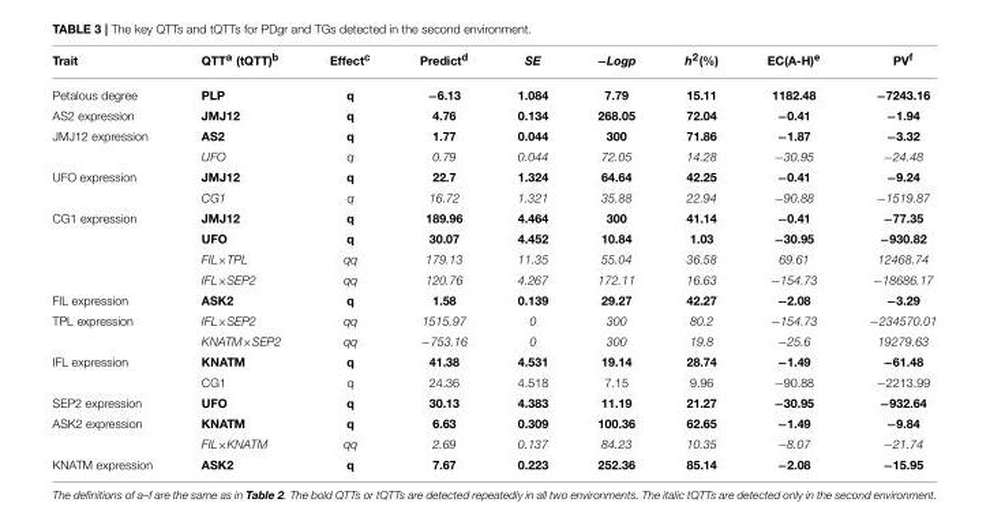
<table><thead><tr><td>Trait</td><td>QTT<sup>a</sup> (tQTT)<sup>b</sup></td><td>Effect<sup>c</sup></td><td>Predict<sup>d</sup></td><td>SE</td><td>−Logp</td><td>h<sup>2</sup>(%)</td><td>EC(A-H)<sup>e</sup></td><td>PV<sup>f</sup></td></tr></thead><tbody><tr><td>Petalous degree</td><td>PLP</td><td>q</td><td>−6.13</td><td>1.084</td><td>7.79</td><td>15.11</td><td>1182.48</td><td>−7243.16</td></tr><tr><td>AS2 expression</td><td>JMJ12</td><td>q</td><td>4.76</td><td>0.134</td><td>268.05</td><td>72.04</td><td>−0.41</td><td>−1.94</td></tr><tr><td rowspan="2">JMJ12 expression</td><td>AS2</td><td>q</td><td>1.77</td><td>0.044</td><td>300</td><td>71.86</td><td>−1.87</td><td>−3.32</td></tr><tr><td>UFO</td><td>q</td><td>0.79</td><td>0.044</td><td>72.05</td><td>14.28</td><td>−30.95</td><td>−24.48</td></tr><tr><td rowspan="2">UFO expression</td><td>JMJ12</td><td>q</td><td>22.7</td><td>1.324</td><td>64.64</td><td>42.25</td><td>−0.41</td><td>−9.24</td></tr><tr><td>CG1</td><td>q</td><td>16.72</td><td>1.321</td><td>35.88</td><td>22.94</td><td>−90.88</td><td>−1519.87</td></tr><tr><td rowspan="4">CG1 expression</td><td>JMJ12</td><td>q</td><td>189.96</td><td>4.464</td><td>300</td><td>41.14</td><td>−0.41</td><td>−77.35</td></tr><tr><td>UFO</td><td>q</td><td>30.07</td><td>4.452</td><td>10.84</td><td>1.03</td><td>−30.95</td><td>−930.82</td></tr><tr><td>FIL×TPL</td><td>qq</td><td>179.13</td><td>11.35</td><td>55.04</td><td>36.58</td><td>69.61</td><td>12468.74</td></tr><tr><td>IFL×SEP2</td><td>qq</td><td>120.76</td><td>4.267</td><td>172.11</td><td>16.63</td><td>−154.73</td><td>−18686.17</td></tr><tr><td>FIL expression</td><td>ASK2</td><td>q</td><td>1.58</td><td>0.139</td><td>29.27</td><td>42.27</td><td>−2.08</td><td>−3.29</td></tr><tr><td rowspan="2">TPL expression</td><td>IFL×SEP2</td><td>qq</td><td>1515.97</td><td>0</td><td>300</td><td>80.2</td><td>−154.73</td><td>−234570.01</td></tr><tr><td>KNATM×SEP2</td><td>qq</td><td>−753.16</td><td>0</td><td>300</td><td>19.8</td><td>−25.6</td><td>19279.63</td></tr><tr><td rowspan="2">IFL expression</td><td>KNATM</td><td>q</td><td>41.38</td><td>4.531</td><td>19.14</td><td>28.74</td><td>−1.49</td><td>−61.48</td></tr><tr><td>CG1</td><td>q</td><td>24.36</td><td>4.518</td><td>7.15</td><td>9.96</td><td>−90.88</td><td>−2213.99</td></tr><tr><td>SEP2 expression</td><td>UFO</td><td>q</td><td>30.13</td><td>4.383</td><td>11.19</td><td>21.27</td><td>−30.95</td><td>−932.64</td></tr><tr><td rowspan="2">ASK2 expression</td><td>KNATM</td><td>q</td><td>6.63</td><td>0.309</td><td>100.36</td><td>62.65</td><td>−1.49</td><td>−9.84</td></tr><tr><td>FIL×KNATM</td><td>qq</td><td>2.69</td><td>0.137</td><td>84.23</td><td>10.35</td><td>−8.07</td><td>−21.74</td></tr><tr><td>KNATM expression</td><td>ASK2</td><td>q</td><td>7.67</td><td>0.223</td><td>252.36</td><td>85.14</td><td>−2.08</td><td>−15.95</td></tr></tbody></table>